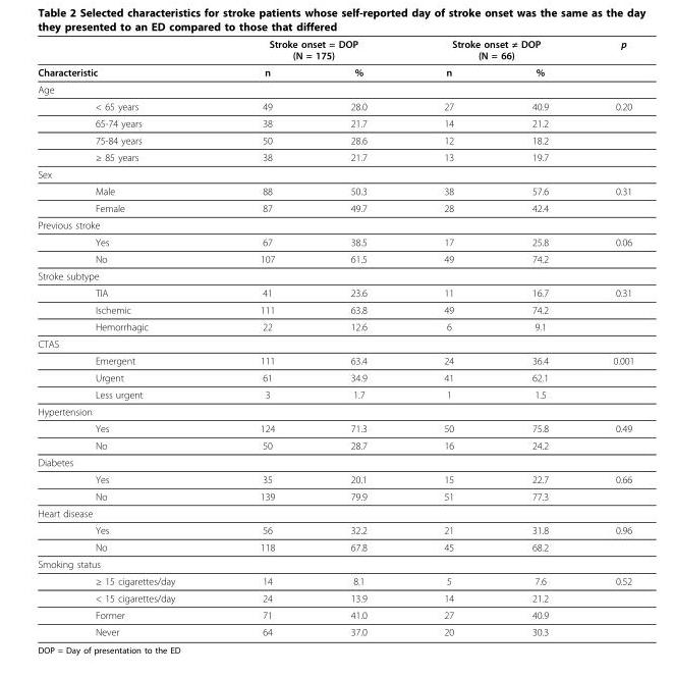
<table><thead><tr><td rowspan="2">Characteristic</td><td colspan="2">Stroke onset = DOP (N = 175)</td><td colspan="2">Stroke onset ≠ DOP (N = 66)</td><td rowspan="2">p</td></tr><tr><td>n</td><td>%</td><td>n</td><td>%</td></tr></thead><tbody><tr><td colspan="6">Age</td></tr><tr><td>&lt; 65 years</td><td>49</td><td>28.0</td><td>27</td><td>40.9</td><td>0.20</td></tr><tr><td>65-74 years</td><td>38</td><td>21.7</td><td>14</td><td>21.2</td><td></td></tr><tr><td>75-84 years</td><td>50</td><td>28.6</td><td>12</td><td>18.2</td><td></td></tr><tr><td>≥ 85 years</td><td>38</td><td>21.7</td><td>13</td><td>19.7</td><td></td></tr><tr><td colspan="6">Sex</td></tr><tr><td>Male</td><td>88</td><td>50.3</td><td>38</td><td>57.6</td><td>0.31</td></tr><tr><td>Female</td><td>87</td><td>49.7</td><td>28</td><td>42.4</td><td></td></tr><tr><td colspan="6">Previous stroke</td></tr><tr><td>Yes</td><td>67</td><td>38.5</td><td>17</td><td>25.8</td><td>0.06</td></tr><tr><td>No</td><td>107</td><td>61.5</td><td>49</td><td>74.2</td><td></td></tr><tr><td colspan="6">Stroke subtype</td></tr><tr><td>TIA</td><td>41</td><td>23.6</td><td>11</td><td>16.7</td><td>0.31</td></tr><tr><td>Ischemic</td><td>111</td><td>63.8</td><td>49</td><td>74.2</td><td></td></tr><tr><td>Hemorrhagic</td><td>22</td><td>12.6</td><td>6</td><td>9.1</td><td></td></tr><tr><td colspan="6">CTAS</td></tr><tr><td>Emergent</td><td>111</td><td>63.4</td><td>24</td><td>36.4</td><td>0.001</td></tr><tr><td>Urgent</td><td>61</td><td>34.9</td><td>41</td><td>62.1</td><td></td></tr><tr><td>Less urgent</td><td>3</td><td>1.7</td><td>1</td><td>1.5</td><td></td></tr><tr><td colspan="6">Hypertension</td></tr><tr><td>Yes</td><td>124</td><td>71.3</td><td>50</td><td>75.8</td><td>0.49</td></tr><tr><td>No</td><td>50</td><td>28.7</td><td>16</td><td>24.2</td><td></td></tr><tr><td colspan="6">Diabetes</td></tr><tr><td>Yes</td><td>35</td><td>20.1</td><td>15</td><td>22.7</td><td>0.66</td></tr><tr><td>No</td><td>139</td><td>79.9</td><td>51</td><td>77.3</td><td></td></tr><tr><td colspan="6">Heart disease</td></tr><tr><td>Yes</td><td>56</td><td>32.2</td><td>21</td><td>31.8</td><td>0.96</td></tr><tr><td>No</td><td>118</td><td>67.8</td><td>45</td><td>68.2</td><td></td></tr><tr><td colspan="6">Smoking status</td></tr><tr><td>≥ 15 cigarettes/day</td><td>14</td><td>8.1</td><td>5</td><td>7.6</td><td>0.52</td></tr><tr><td>&lt; 15 cigarettes/day</td><td>24</td><td>13.9</td><td>14</td><td>21.2</td><td></td></tr><tr><td>Former</td><td>71</td><td>41.0</td><td>27</td><td>40.9</td><td></td></tr><tr><td>Never</td><td>64</td><td>37.0</td><td>20</td><td>30.3</td><td></td></tr></tbody></table>